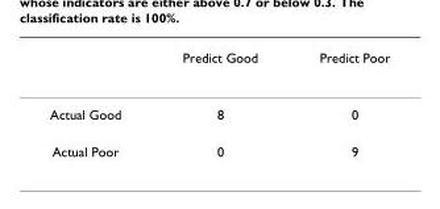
<table><thead><tr><td></td><td>Predict Good</td><td>Predict Poor</td></tr></thead><tbody><tr><td>Actual Good</td><td>8</td><td>0</td></tr><tr><td>Actual Poor</td><td>0</td><td>9</td></tr></tbody></table>